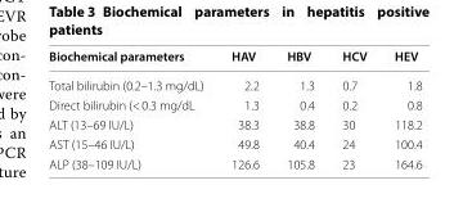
<table><thead><tr><td>Biochemical parameters</td><td>HAV</td><td>HBV</td><td>HCV</td><td>HEV</td></tr></thead><tbody><tr><td>Total bilirubin (0.2–1.3 mg/dL)</td><td>2.2</td><td>1.3</td><td>0.7</td><td>1.8</td></tr><tr><td>Direct bilirubin (&lt; 0.3 mg/dL</td><td>1.3</td><td>0.4</td><td>0.2</td><td>0.8</td></tr><tr><td>ALT (13–69 IU/L)</td><td>38.3</td><td>38.8</td><td>30</td><td>118.2</td></tr><tr><td>AST (15–46 IU/L)</td><td>49.8</td><td>40.4</td><td>24</td><td>100.4</td></tr><tr><td>ALP (38–109 IU/L)</td><td>126.6</td><td>105.8</td><td>23</td><td>164.6</td></tr></tbody></table>